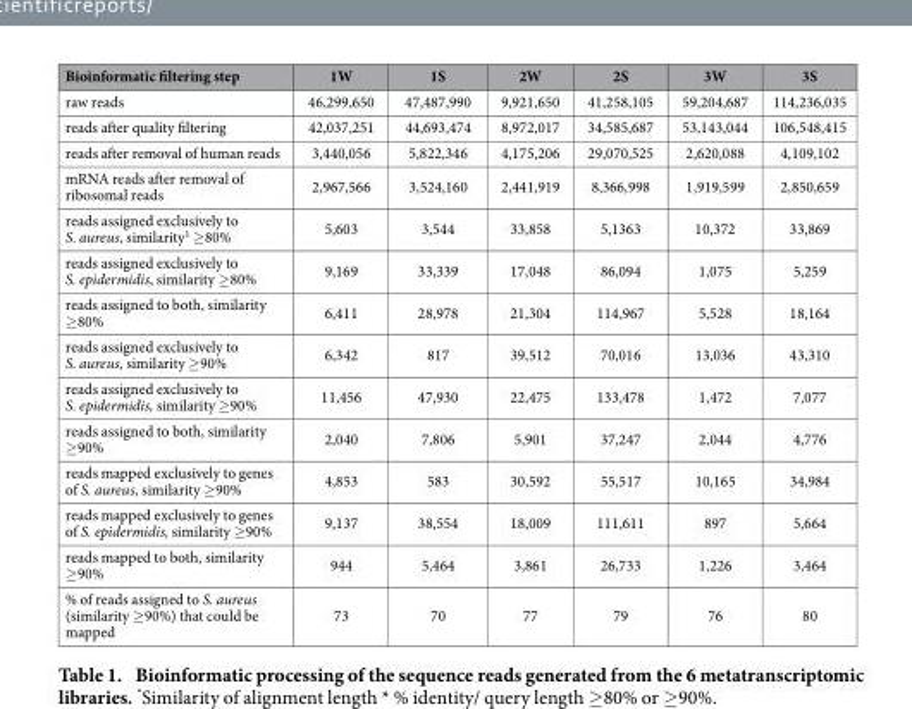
<table><thead><tr><td>Bioinformatic filtering step</td><td>1W</td><td>1S</td><td>2W</td><td>2S</td><td>3W</td><td>3S</td></tr></thead><tbody><tr><td>raw reads</td><td>46,299,650</td><td>47,487,990</td><td>9,921,650</td><td>41,258,105</td><td>59,204,687</td><td>114,236,035</td></tr><tr><td>reads after quality filtering</td><td>42,037,251</td><td>44,693,474</td><td>8,972,017</td><td>34,585,687</td><td>53,143,044</td><td>106,548,415</td></tr><tr><td>reads after removal of human reads</td><td>3,440,056</td><td>5,822,346</td><td>4,175,206</td><td>29,070,525</td><td>2,620,088</td><td>4,109,102</td></tr><tr><td>mRNA reads after removal of ribosomal reads</td><td>2,967,566</td><td>3,524,160</td><td>2,441,919</td><td>8,366,998</td><td>1,919,599</td><td>2,850,659</td></tr><tr><td>reads assigned exclusively to S. aureus, similarity<sup>1</sup> ≥ 80%</td><td>5,603</td><td>3,544</td><td>33,858</td><td>5,1363</td><td>10,372</td><td>33,869</td></tr><tr><td>reads assigned exclusively to S. epidermidis, similarity ≥ 80%</td><td>9,169</td><td>33,339</td><td>17,048</td><td>86,094</td><td>1,075</td><td>5,259</td></tr><tr><td>reads assigned to both, similarity ≥ 80%</td><td>6,411</td><td>28,978</td><td>21,304</td><td>114,967</td><td>5,528</td><td>18,164</td></tr><tr><td>reads assigned exclusively to S. aureus, similarity ≥ 90%</td><td>6,342</td><td>817</td><td>39,512</td><td>70,016</td><td>13,036</td><td>43,310</td></tr><tr><td>reads assigned exclusively to S. epidermidis, similarity ≥ 90%</td><td>11,456</td><td>47,930</td><td>22,475</td><td>133,478</td><td>1,472</td><td>7,077</td></tr><tr><td>reads assigned to both, similarity ≥ 90%</td><td>2,040</td><td>7,806</td><td>5,901</td><td>37,247</td><td>2,044</td><td>4,776</td></tr><tr><td>reads mapped exclusively to genes of S. aureus, similarity ≥ 90%</td><td>4,853</td><td>583</td><td>30,592</td><td>55,517</td><td>10,165</td><td>34,984</td></tr><tr><td>reads mapped exclusively to genes of S. epidermidis, similarity ≥ 90%</td><td>9,137</td><td>38,554</td><td>18,009</td><td>111,611</td><td>897</td><td>5,664</td></tr><tr><td>reads mapped to both, similarity ≥ 90%</td><td>944</td><td>5,464</td><td>3,861</td><td>26,733</td><td>1,226</td><td>3,464</td></tr><tr><td>% of reads assigned to S. aureus (similarity ≥ 90%) that could be mapped</td><td>73</td><td>70</td><td>77</td><td>79</td><td>76</td><td>80</td></tr></tbody></table>